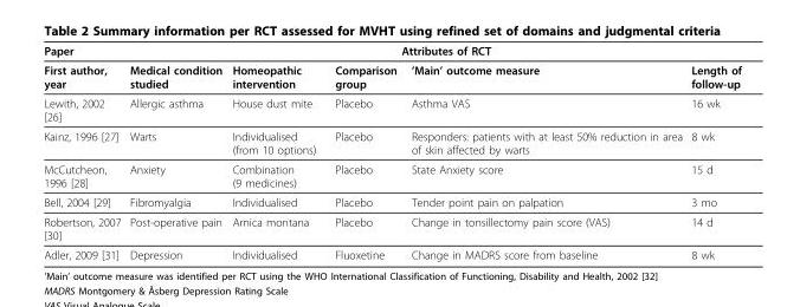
<table><thead><tr><td rowspan="2">Paper First author, year</td><td colspan="5">Attributes of RCT</td></tr><tr><td>Medical condition studied</td><td>Homeopathic intervention</td><td>Comparison group</td><td>’Main’ outcome measure</td><td>Length of follow-up</td></tr></thead><tbody><tr><td>Lewith, 2002 [26]</td><td>Allergic asthma</td><td>House dust mite</td><td>Placebo</td><td>Asthma VAS</td><td>16 wk</td></tr><tr><td>Kainz, 1996 [27]</td><td>Warts</td><td>Individualised (from 10 options)</td><td>Placebo</td><td>Responders: patients with at least 50% reduction in area of skin affected by warts</td><td>8 wk</td></tr><tr><td>McCutcheon, 1996 [28]</td><td>Anxiety</td><td>Combination (9 medicines)</td><td>Placebo</td><td>State Anxiety score</td><td>15 d</td></tr><tr><td>Bell, 2004 [29]</td><td>Fibromyalgia</td><td>Individualised</td><td>Placebo</td><td>Tender point pain on palpation</td><td>3 mo</td></tr><tr><td>Robertson, 2007 [30]</td><td>Post-operative pain</td><td>Arnica montana</td><td>Placebo</td><td>Change in tonsillectomy pain score (VAS)</td><td>14 d</td></tr><tr><td>Adler, 2009 [31]</td><td>Depression</td><td>Individualised</td><td>Fluoxetine</td><td>Change in MADRS score from baseline</td><td>8 wk</td></tr></tbody></table>